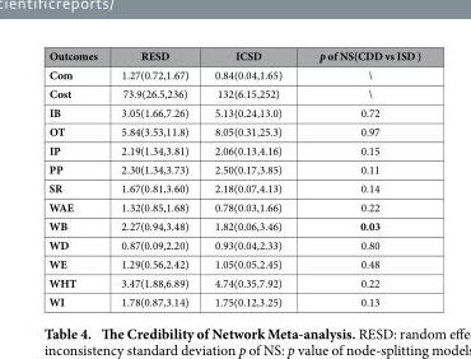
<table><thead><tr><td>Outcomes</td><td>RESD</td><td>ICSD</td><td>p of NS(CDD vs ISD )</td></tr></thead><tbody><tr><td>Com</td><td>1.27(0.72,1.67)</td><td>0.84(0.04,1.65)</td><td>\</td></tr><tr><td>Cost</td><td>73.9(26.5,236)</td><td>132(6.15,252)</td><td>\</td></tr><tr><td>IB</td><td>3.05(1.66,7.26)</td><td>5.13(0.24,13.0)</td><td>0.72</td></tr><tr><td>OT</td><td>5.84(3.53,11.8)</td><td>8.05(0.31,25.3)</td><td>0.97</td></tr><tr><td>IP</td><td>2.19(1.34,3.81)</td><td>2.06(0.13,4.16)</td><td>0.15</td></tr><tr><td>PP</td><td>2.30(1.34,3.73)</td><td>2.50(0.17,3.85)</td><td>0.11</td></tr><tr><td>SR</td><td>1.67(0.81,3.60)</td><td>2.18(0.07,4.13)</td><td>0.14</td></tr><tr><td>WAE</td><td>1.32(0.85,1.68)</td><td>0.78(0.03,1.66)</td><td>0.22</td></tr><tr><td>WB</td><td>2.27(0.94,3.48)</td><td>1.82(0.06,3.46)</td><td>0.03</td></tr><tr><td>WD</td><td>0.87(0.09,2.20)</td><td>0.93(0.04,2.33)</td><td>0.80</td></tr><tr><td>WE</td><td>1.29(0.56,2.42)</td><td>1.05(0.05,2.45)</td><td>0.48</td></tr><tr><td>WHT</td><td>3.47(1.88,6.89)</td><td>4.74(0.35,7.92)</td><td>0.22</td></tr><tr><td>WI</td><td>1.78(0.87,3.14)</td><td>1.75(0.12,3.25)</td><td>0.13</td></tr></tbody></table>